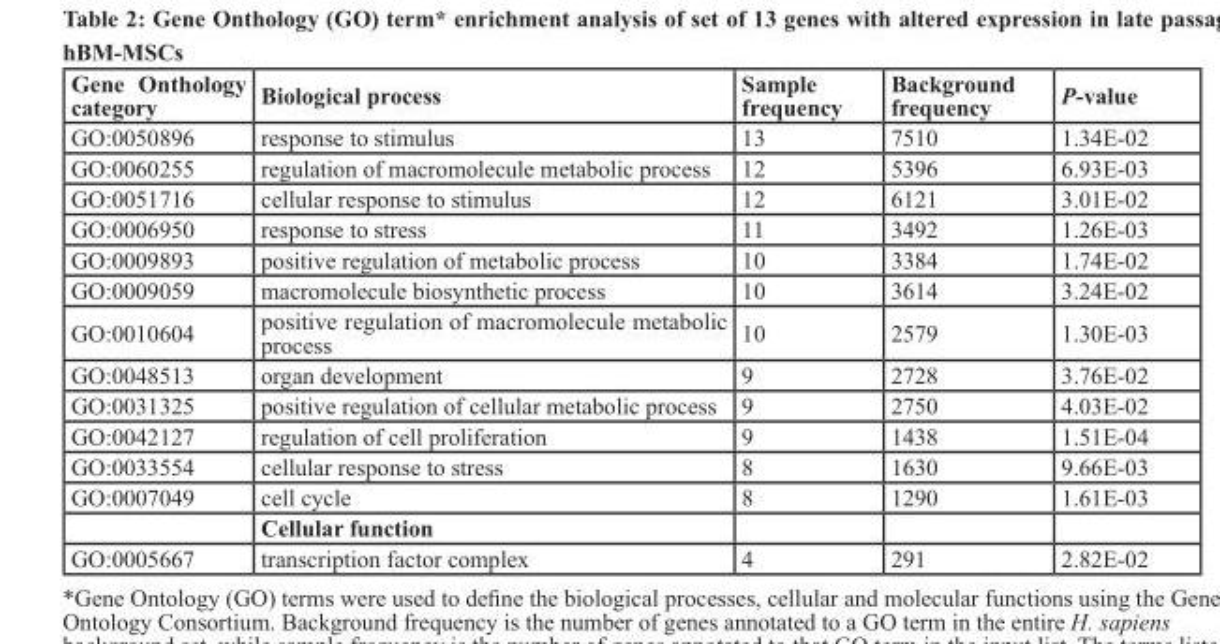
<table><thead><tr><td>Gene Onthology category</td><td>Biological process</td><td>Sample frequency</td><td>Background frequency</td><td>P-value</td></tr></thead><tbody><tr><td>GO:0050896</td><td>response to stimulus</td><td>13</td><td>7510</td><td>1.34E-02</td></tr><tr><td>GO:0060255</td><td>regulation of macromolecule metabolic process</td><td>12</td><td>5396</td><td>6.93E-03</td></tr><tr><td>GO:0051716</td><td>cellular response to stimulus</td><td>12</td><td>6121</td><td>3.01E-02</td></tr><tr><td>GO:0006950</td><td>response to stress</td><td>11</td><td>3492</td><td>1.26E-03</td></tr><tr><td>GO:0009893</td><td>positive regulation of metabolic process</td><td>10</td><td>3384</td><td>1.74E-02</td></tr><tr><td>GO:0009059</td><td>macromolecule biosynthetic process</td><td>10</td><td>3614</td><td>3.24E-02</td></tr><tr><td>GO:0010604</td><td>positive regulation of macromolecule metabolic process</td><td>10</td><td>2579</td><td>1.30E-03</td></tr><tr><td>GO:0048513</td><td>organ development</td><td>9</td><td>2728</td><td>3.76E-02</td></tr><tr><td>GO:0031325</td><td>positive regulation of cellular metabolic process</td><td>9</td><td>2750</td><td>4.03E-02</td></tr><tr><td>GO:0042127</td><td>regulation of cell proliferation</td><td>9</td><td>1438</td><td>1.51E-04</td></tr><tr><td>GO:0033554</td><td>cellular response to stress</td><td>8</td><td>1630</td><td>9.66E-03</td></tr><tr><td rowspan="2">GO:0007049</td><td>cell cycle</td><td>8</td><td>1290</td><td>1.61E-03</td></tr><tr><td>Cellular function</td><td></td><td></td><td></td></tr><tr><td>GO:0005667</td><td>transcription factor complex</td><td>4</td><td>291</td><td>2.82E-02</td></tr></tbody></table>